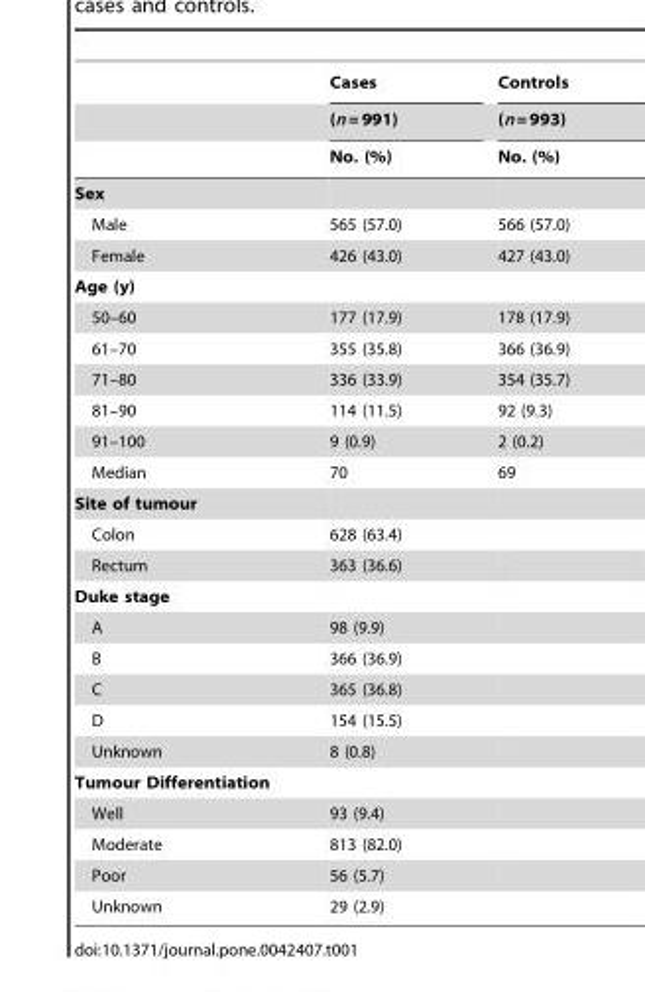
<table><thead><tr><td rowspan="3"></td><td rowspan="3">Cases (n = 991) No. (%)</td><td rowspan="3">Controls (n = 993) No. (%)</td></tr><tr></tr><tr></tr></thead><tbody><tr><td colspan="3">Sex</td></tr><tr><td>Male</td><td>565 (57.0)</td><td>566 (57.0)</td></tr><tr><td>Female</td><td>426 (43.0)</td><td>427 (43.0)</td></tr><tr><td colspan="3">Age (y)</td></tr><tr><td>50–60</td><td>177 (17.9)</td><td>178 (17.9)</td></tr><tr><td>61–70</td><td>355 (35.8)</td><td>366 (36.9)</td></tr><tr><td>71–80</td><td>336 (33.9)</td><td>354 (35.7)</td></tr><tr><td>81–90</td><td>114 (11.5)</td><td>92 (9.3)</td></tr><tr><td>91–100</td><td>9 (0.9)</td><td>2 (0.2)</td></tr><tr><td>Median</td><td>70</td><td>69</td></tr><tr><td colspan="3">Site of tumour</td></tr><tr><td>Colon</td><td>628 (63.4)</td><td></td></tr><tr><td>Rectum</td><td>363 (36.6)</td><td></td></tr><tr><td colspan="3">Duke stage</td></tr><tr><td>A</td><td>98 (9.9)</td><td></td></tr><tr><td>B</td><td>366 (36.9)</td><td></td></tr><tr><td>C</td><td>365 (36.8)</td><td></td></tr><tr><td>D</td><td>154 (15.5)</td><td></td></tr><tr><td>Unknown</td><td>8 (0.8)</td><td></td></tr><tr><td colspan="3">Tumour Differentiation</td></tr><tr><td>Well</td><td>93 (9.4)</td><td></td></tr><tr><td>Moderate</td><td>813 (82.0)</td><td></td></tr><tr><td>Poor</td><td>56 (5.7)</td><td></td></tr><tr><td>Unknown</td><td>29 (2.9)</td><td></td></tr></tbody></table>